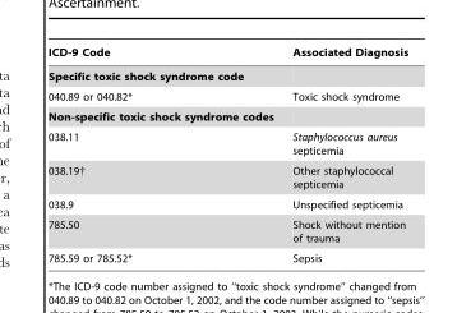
<table><thead><tr><td>ICD-9 Code</td><td>Associated Diagnosis</td></tr></thead><tbody><tr><td colspan="2">Specific toxic shock syndrome code</td></tr><tr><td>040.89 or 040.82*</td><td>Toxic shock syndrome</td></tr><tr><td colspan="2">Non-specific toxic shock syndrome codes</td></tr><tr><td>038.11</td><td>Staphylococcus aureus septicemia</td></tr><tr><td>038.19†</td><td>Other staphylococcal septicemia</td></tr><tr><td>038.9</td><td>Unspecified septicemia</td></tr><tr><td>785.50</td><td>Shock without mention of trauma</td></tr><tr><td>785.59 or 785.52*</td><td>Sepsis</td></tr></tbody></table>